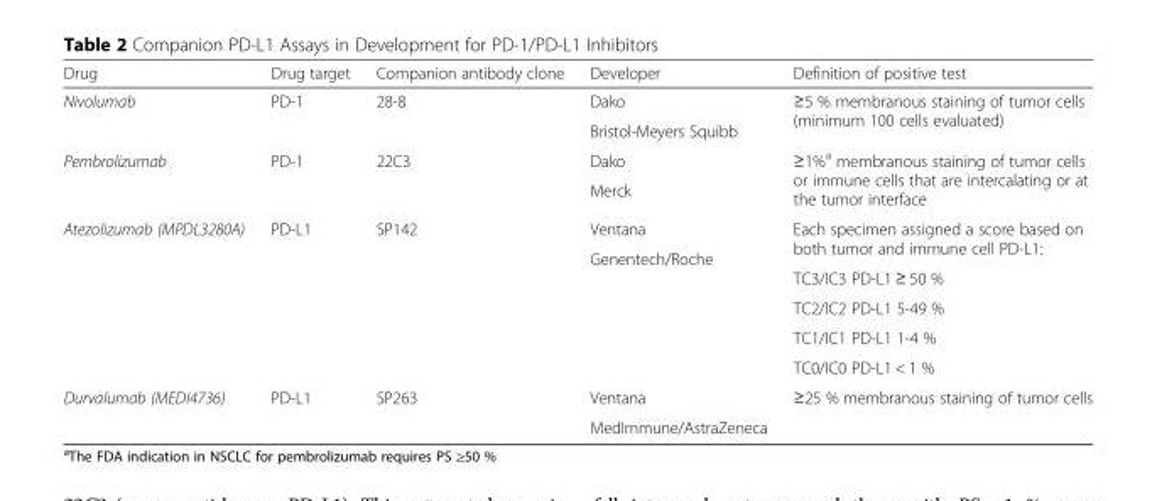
<table><thead><tr><td>Drug</td><td>Drug target</td><td>Companion antibody clone</td><td>Developer</td><td>Definition of positive test</td></tr></thead><tbody><tr><td rowspan="2">Nivolumab</td><td rowspan="2">PD-1</td><td rowspan="2">28-8</td><td>Dako</td><td rowspan="2">≥5 % membranous staining of tumor cells (minimum 100 cells evaluated)</td></tr><tr><td>Bristol-Meyers Squibb</td></tr><tr><td rowspan="2">Pembrolizumab</td><td rowspan="2">PD-1</td><td rowspan="2">22C3</td><td>Dako</td><td rowspan="2">≥1%<sup>a</sup> membranous staining of tumor cells or immune cells that are intercalating or at the tumor interface</td></tr><tr><td>Merck</td></tr><tr><td rowspan="6">Atezolizumab (MPDL3280A)</td><td rowspan="6">PD-L1</td><td rowspan="6">SP142</td><td>Ventana</td><td rowspan="2">Each specimen assigned a score based on both tumor and immune cell PD-L1:</td></tr><tr><td rowspan="5">Genentech/Roche</td></tr><tr><td>TC3/IC3 PD-L1 ≥ 50 %</td></tr><tr><td>TC2/IC2 PD-L1 5-49 %</td></tr><tr><td>TC1/IC1 PD-L1 1-4 %</td></tr><tr><td>TC0/IC0 PD-L1 &lt; 1 %</td></tr><tr><td rowspan="2">Durvalumab (MEDI4736)</td><td rowspan="2">PD-L1</td><td rowspan="2">SP263</td><td>Ventana</td><td rowspan="2">≥25 % membranous staining of tumor cells</td></tr><tr><td>MedImmune/AstraZeneca</td></tr></tbody></table>